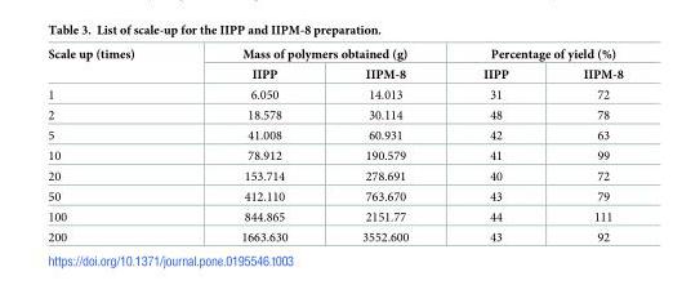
<table><thead><tr><td rowspan="2">Scale up (times)</td><td colspan="2">Mass of polymers obtained (g)</td><td colspan="2">Percentage of yield (%)</td></tr><tr><td>IIPP</td><td>IIPM-8</td><td>IIPP</td><td>IIPM-8</td></tr></thead><tbody><tr><td>1</td><td>6.050</td><td>14.013</td><td>31</td><td>72</td></tr><tr><td>2</td><td>18.578</td><td>30.114</td><td>48</td><td>78</td></tr><tr><td>5</td><td>41.008</td><td>60.931</td><td>42</td><td>63</td></tr><tr><td>10</td><td>78.912</td><td>190.579</td><td>41</td><td>99</td></tr><tr><td>20</td><td>153.714</td><td>278.691</td><td>40</td><td>72</td></tr><tr><td>50</td><td>412.110</td><td>763.670</td><td>43</td><td>79</td></tr><tr><td>100</td><td>844.865</td><td>2151.77</td><td>44</td><td>111</td></tr><tr><td>200</td><td>1663.630</td><td>3552.600</td><td>43</td><td>92</td></tr></tbody></table>